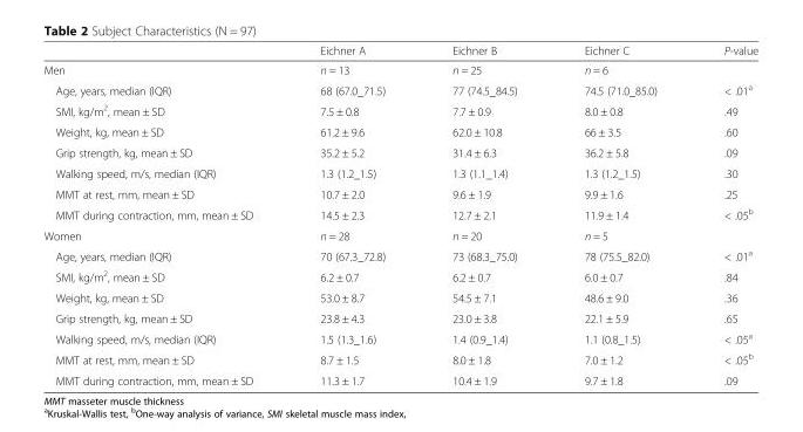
<table><thead><tr><td></td><td>Eichner A</td><td>Eichner B</td><td>Eichner C</td><td>P-value</td></tr></thead><tbody><tr><td>Men</td><td>n = 13</td><td>n = 25</td><td>n = 6</td><td></td></tr><tr><td>Age, years, median (IQR)</td><td>68 (67.0_71.5)</td><td>77 (74.5_84.5)</td><td>74.5 (71.0_85.0)</td><td>&lt; .01<sup>a</sup></td></tr><tr><td>SMI, kg/m<sup>2</sup>, mean ± SD</td><td>7.5 ± 0.8</td><td>7.7 ± 0.9</td><td>8.0 ± 0.8</td><td>.49</td></tr><tr><td>Weight, kg, mean ± SD</td><td>61.2 ± 9.6</td><td>62.0 ± 10.8</td><td>66 ± 3.5</td><td>.60</td></tr><tr><td>Grip strength, kg, mean ± SD</td><td>35.2 ± 5.2</td><td>31.4 ± 6.3</td><td>36.2 ± 5.8</td><td>.09</td></tr><tr><td>Walking speed, m/s, median (IQR)</td><td>1.3 (1.2_1.5)</td><td>1.3 (1.1_1.4)</td><td>1.3 (1.2_1.5)</td><td>.30</td></tr><tr><td>MMT at rest, mm, mean ± SD</td><td>10.7 ± 2.0</td><td>9.6 ± 1.9</td><td>9.9 ± 1.6</td><td>.25</td></tr><tr><td>MMT during contraction, mm, mean ± SD</td><td>14.5 ± 2.3</td><td>12.7 ± 2.1</td><td>11.9 ± 1.4</td><td>&lt; .05<sup>b</sup></td></tr><tr><td>Women</td><td>n = 28</td><td>n = 20</td><td>n = 5</td><td></td></tr><tr><td>Age, years, median (IQR)</td><td>70 (67.3_72.8)</td><td>73 (68.3_75.0)</td><td>78 (75.5_82.0)</td><td>&lt; .01<sup>a</sup></td></tr><tr><td>SMI, kg/m<sup>2</sup>, mean ± SD</td><td>6.2 ± 0.7</td><td>6.2 ± 0.7</td><td>6.0 ± 0.7</td><td>.84</td></tr><tr><td>Weight, kg, mean ± SD</td><td>53.0 ± 8.7</td><td>54.5 ± 7.1</td><td>48.6 ± 9.0</td><td>.36</td></tr><tr><td>Grip strength, kg, mean ± SD</td><td>23.8 ± 4.3</td><td>23.0 ± 3.8</td><td>22.1 ± 5.9</td><td>.65</td></tr><tr><td>Walking speed, m/s, median (IQR)</td><td>1.5 (1.3_1.6)</td><td>1.4 (0.9_1.4)</td><td>1.1 (0.8_1.5)</td><td>&lt; .05<sup>a</sup></td></tr><tr><td>MMT at rest, mm, mean ± SD</td><td>8.7 ± 1.5</td><td>8.0 ± 1.8</td><td>7.0 ± 1.2</td><td>&lt; .05<sup>b</sup></td></tr><tr><td>MMT during contraction, mm, mean ± SD</td><td>11.3 ± 1.7</td><td>10.4 ± 1.9</td><td>9.7 ± 1.8</td><td>.09</td></tr></tbody></table>